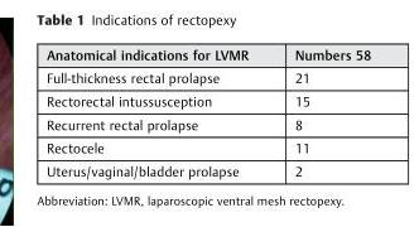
<table><thead><tr><td>Anatomical indications for LVMR</td><td>Numbers 58</td></tr></thead><tbody><tr><td>Full-thickness rectal prolapse</td><td>21</td></tr><tr><td>Rectorectal intussusception</td><td>15</td></tr><tr><td>Recurrent rectal prolapse</td><td>8</td></tr><tr><td>Rectocele</td><td>11</td></tr><tr><td>Uterus/vaginal/bladder prolapse</td><td>2</td></tr></tbody></table>